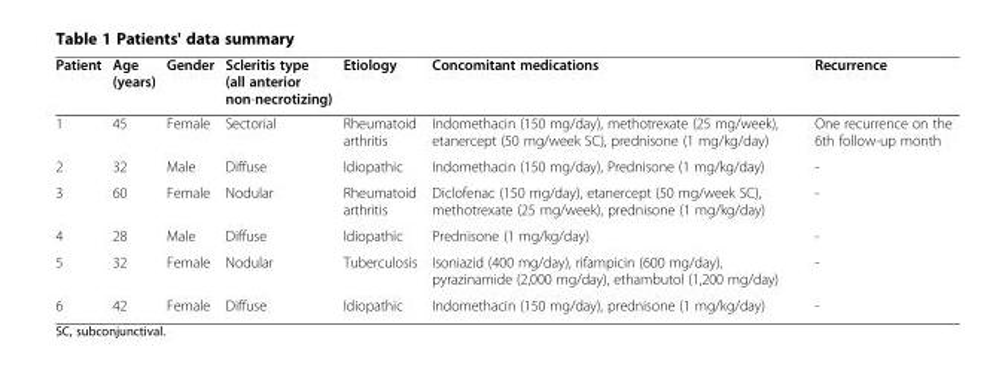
<table><thead><tr><td>Patient</td><td>Age (years)</td><td>Gender</td><td>Scleritis type (all anterior non-necrotizing)</td><td>Etiology</td><td>Concomitant medications</td><td>Recurrence</td></tr></thead><tbody><tr><td>1</td><td>45</td><td>Female</td><td>Sectorial</td><td>Rheumatoid arthritis</td><td>Indomethacin (150 mg/day), methotrexate (25 mg/week), etanercept (50 mg/week SC), prednisone (1 mg/kg/day)</td><td>One recurrence on the 6th follow-up month</td></tr><tr><td>2</td><td>32</td><td>Male</td><td>Diffuse</td><td>Idiopathic</td><td>Indomethacin (150 mg/day), Prednisone (1 mg/kg/day)</td><td>-</td></tr><tr><td>3</td><td>60</td><td>Female</td><td>Nodular</td><td>Rheumatoid arthritis</td><td>Diclofenac (150 mg/day), etanercept (50 mg/week SC), methotrexate (25 mg/week), prednisone (1 mg/kg/day)</td><td>-</td></tr><tr><td>4</td><td>28</td><td>Male</td><td>Diffuse</td><td>Idiopathic</td><td>Prednisone (1 mg/kg/day)</td><td>-</td></tr><tr><td>5</td><td>32</td><td>Female</td><td>Nodular</td><td>Tuberculosis</td><td>Isoniazid (400 mg/day), rifampicin (600 mg/day), pyrazinamide (2,000 mg/day), ethambutol (1,200 mg/day)</td><td>-</td></tr><tr><td>6</td><td>42</td><td>Female</td><td>Diffuse</td><td>Idiopathic</td><td>Indomethacin (150 mg/day), prednisone (1 mg/kg/day)</td><td>-</td></tr></tbody></table>